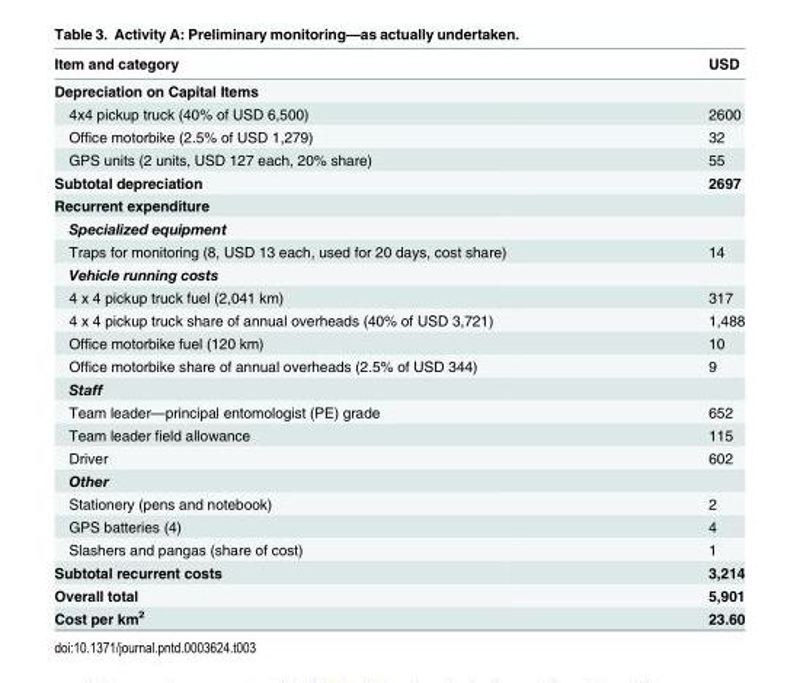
<table><thead><tr><td>Item and category</td><td>USD</td></tr></thead><tbody><tr><td colspan="2">Depreciation on Capital Items</td></tr><tr><td>4x4 pickup truck (40% of USD 6,500)</td><td>2600</td></tr><tr><td>Office motorbike (2.5% of USD 1,279)</td><td>32</td></tr><tr><td>GPS units (2 units, USD 127 each, 20% share)</td><td>55</td></tr><tr><td>Subtotal depreciation</td><td>2697</td></tr><tr><td colspan="2">Recurrent expenditure</td></tr><tr><td colspan="2">Specialized equipment</td></tr><tr><td>Traps for monitoring (8, USD 13 each, used for 20 days, cost share)</td><td>14</td></tr><tr><td colspan="2">Vehicle running costs</td></tr><tr><td>4 x 4 pickup truck fuel (2,041 km)</td><td>317</td></tr><tr><td>4 x 4 pickup truck share of annual overheads (40% of USD 3,721)</td><td>1,488</td></tr><tr><td>Office motorbike fuel (120 km)</td><td>10</td></tr><tr><td>Office motorbike share of annual overheads (2.5% of USD 344)</td><td>9</td></tr><tr><td colspan="2">Staff</td></tr><tr><td>Team leader—principal entomologist (PE) grade</td><td>652</td></tr><tr><td>Team leader field allowance</td><td>115</td></tr><tr><td>Driver</td><td>602</td></tr><tr><td colspan="2">Other</td></tr><tr><td>Stationery (pens and notebook)</td><td>2</td></tr><tr><td>GPS batteries (4)</td><td>4</td></tr><tr><td>Slashers and pangas (share of cost)</td><td>1</td></tr><tr><td>Subtotal recurrent costs</td><td>3,214</td></tr><tr><td>Overall total</td><td>5,901</td></tr><tr><td>Cost per km<sup>2</sup></td><td>23.60</td></tr></tbody></table>